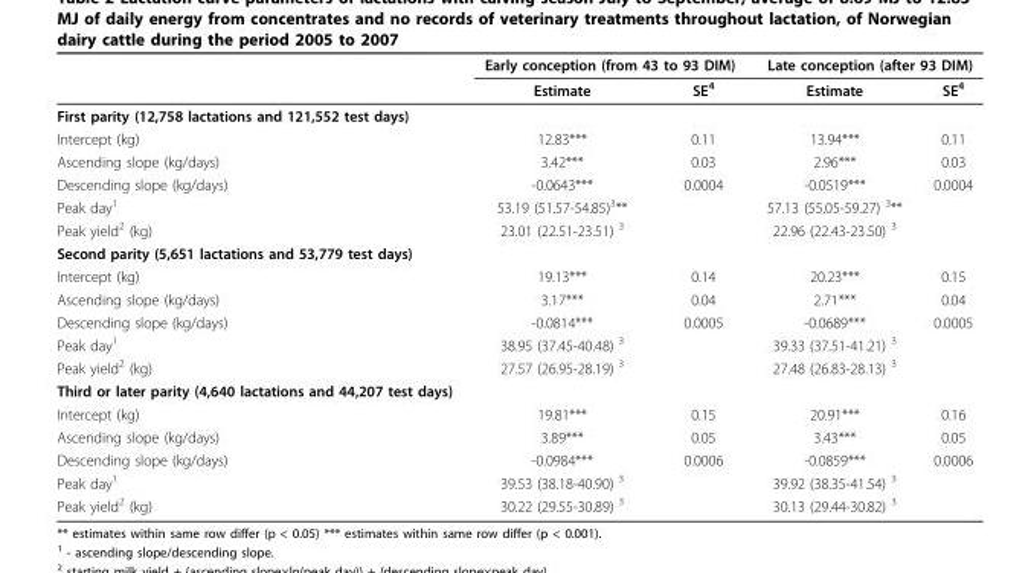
<table><thead><tr><td rowspan="2"></td><td colspan="2">Early conception (from 43 to 93 DIM)</td><td colspan="2">Late conception (after 93 DIM)</td></tr><tr><td>Estimate</td><td>SE<sup>4</sup></td><td>Estimate</td><td>SE<sup>4</sup></td></tr></thead><tbody><tr><td colspan="5">First parity (12,758 lactations and 121,552 test days)</td></tr><tr><td>Intercept (kg)</td><td>12.83***</td><td>0.11</td><td>13.94***</td><td>0.11</td></tr><tr><td>Ascending slope (kg/days)</td><td>3.42***</td><td>0.03</td><td>2.96***</td><td>0.03</td></tr><tr><td>Descending slope (kg/days)</td><td>-0.0643***</td><td>0.0004</td><td>-0.0519***</td><td>0.0004</td></tr><tr><td>Peak day<sup>1</sup></td><td>53.19 (51.57-54.85)<sup>3</sup>**</td><td></td><td>57.13 (55.05-59.27) <sup>3</sup>**</td><td></td></tr><tr><td>Peak yield<sup>2</sup> (kg)</td><td>23.01 (22.51-23.51) <sup>3</sup></td><td></td><td>22.96 (22.43-23.50) <sup>3</sup></td><td></td></tr><tr><td colspan="5">Second parity (5,651 lactations and 53,779 test days)</td></tr><tr><td>Intercept (kg)</td><td>19.13***</td><td>0.14</td><td>20.23***</td><td>0.15</td></tr><tr><td>Ascending slope (kg/days)</td><td>3.17***</td><td>0.04</td><td>2.71***</td><td>0.04</td></tr><tr><td>Descending slope (kg/days)</td><td>-0.0814***</td><td>0.0005</td><td>-0.0689***</td><td>0.0005</td></tr><tr><td>Peak day<sup>1</sup></td><td>38.95 (37.45-40.48) <sup>3</sup></td><td></td><td>39.33 (37.51-41.21) <sup>3</sup></td><td></td></tr><tr><td>Peak yield<sup>2</sup> (kg)</td><td>27.57 (26.95-28.19) <sup>3</sup></td><td></td><td>27.48 (26.83-28.13) <sup>3</sup></td><td></td></tr><tr><td colspan="5">Third or later parity (4,640 lactations and 44,207 test days)</td></tr><tr><td>Intercept (kg)</td><td>19.81***</td><td>0.15</td><td>20.91***</td><td>0.16</td></tr><tr><td>Ascending slope (kg/days)</td><td>3.89***</td><td>0.05</td><td>3.43***</td><td>0.05</td></tr><tr><td>Descending slope (kg/days)</td><td>-0.0984***</td><td>0.0006</td><td>-0.0859***</td><td>0.0006</td></tr><tr><td>Peak day<sup>1</sup></td><td>39.53 (38.18-40.90) <sup>3</sup></td><td></td><td>39.92 (38.35-41.54) <sup>3</sup></td><td></td></tr><tr><td>Peak yield<sup>2</sup> (kg)</td><td>30.22 (29.55-30.89) <sup>3</sup></td><td></td><td>30.13 (29.44-30.82) <sup>3</sup></td><td></td></tr></tbody></table>